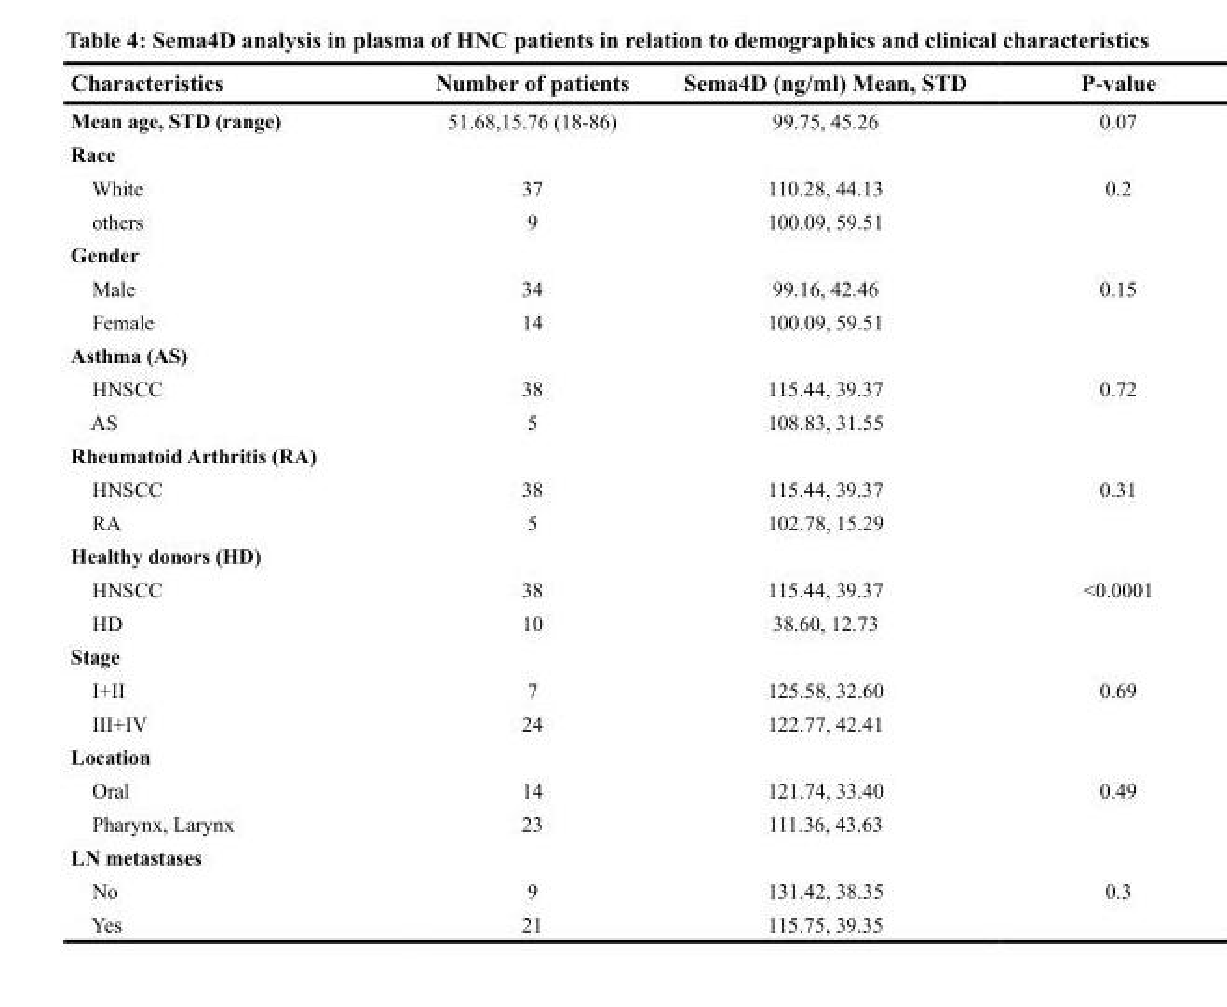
<table><thead><tr><td>Characteristics</td><td>Number of patients</td><td>Sema4D (ng/ml) Mean, STD</td><td>P-value</td></tr></thead><tbody><tr><td>Mean age, STD (range)</td><td>51.68,15.76 (18-86)</td><td>99.75, 45.26</td><td>0.07</td></tr><tr><td colspan="4">Race</td></tr><tr><td>White</td><td>37</td><td>110.28, 44.13</td><td rowspan="2">0.2</td></tr><tr><td>others</td><td>9</td><td>100.09, 59.51</td></tr><tr><td colspan="4">Gender</td></tr><tr><td>Male</td><td>34</td><td>99.16, 42.46</td><td rowspan="2">0.15</td></tr><tr><td>Female</td><td>14</td><td>100.09, 59.51</td></tr><tr><td colspan="4">Asthma (AS)</td></tr><tr><td>HNSCC</td><td>38</td><td>115.44, 39.37</td><td rowspan="2">0.72</td></tr><tr><td>AS</td><td>5</td><td>108.83, 31.55</td></tr><tr><td colspan="4">Rheumatoid Arthritis (RA)</td></tr><tr><td>HNSCC</td><td>38</td><td>115.44, 39.37</td><td rowspan="2">0.31</td></tr><tr><td>RA</td><td>5</td><td>102.78, 15.29</td></tr><tr><td colspan="4">Healthy donors (HD)</td></tr><tr><td>HNSCC</td><td>38</td><td>115.44, 39.37</td><td rowspan="2">&lt;0.0001</td></tr><tr><td>HD</td><td>10</td><td>38.60, 12.73</td></tr><tr><td colspan="4">Stage</td></tr><tr><td>I+II</td><td>7</td><td>125.58, 32.60</td><td rowspan="2">0.69</td></tr><tr><td>III+IV</td><td>24</td><td>122.77, 42.41</td></tr><tr><td colspan="4">Location</td></tr><tr><td>Oral</td><td>14</td><td>121.74, 33.40</td><td rowspan="2">0.49</td></tr><tr><td>Pharynx, Larynx</td><td>23</td><td>111.36, 43.63</td></tr><tr><td colspan="4">LN metastases</td></tr><tr><td>No</td><td>9</td><td>131.42, 38.35</td><td rowspan="2">0.3</td></tr><tr><td>Yes</td><td>21</td><td>115.75, 39.35</td></tr></tbody></table>